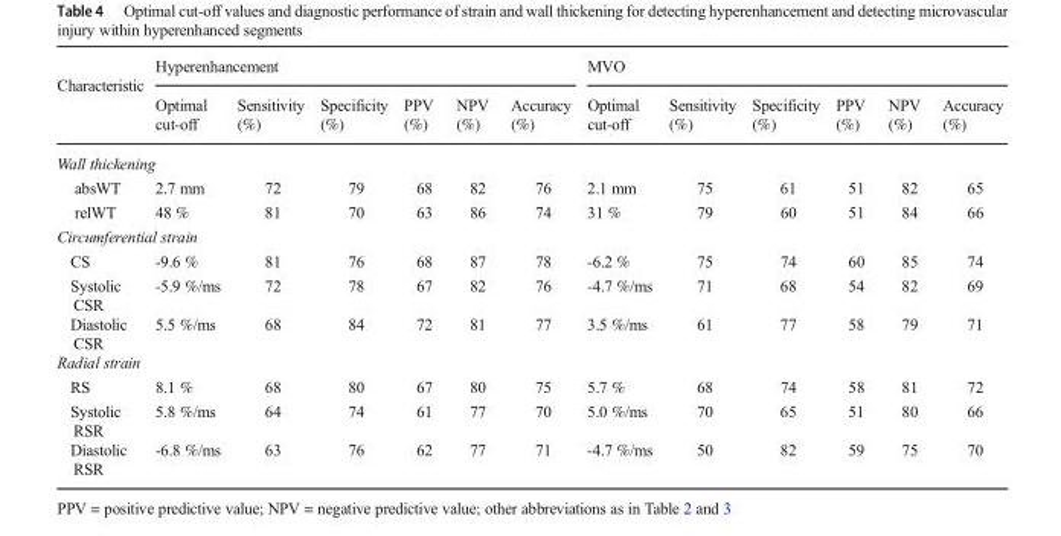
<table><thead><tr><td rowspan="2">Characteristic</td><td colspan="6">Hyperenhancement</td><td colspan="6">MVO</td></tr><tr><td>Optimal cut-off</td><td>Sensitivity (%)</td><td>Specificity (%)</td><td>PPV (%)</td><td>NPV (%)</td><td>Accuracy (%)</td><td>Optimal cut-off</td><td>Sensitivity (%)</td><td>Specificity (%)</td><td>PPV (%)</td><td>NPV (%)</td><td>Accuracy (%)</td></tr></thead><tbody><tr><td colspan="13">Wall thickening</td></tr><tr><td>absWT</td><td>2.7 mm</td><td>72</td><td>79</td><td>68</td><td>82</td><td>76</td><td>2.1 mm</td><td>75</td><td>61</td><td>51</td><td>82</td><td>65</td></tr><tr><td>relWT</td><td>48 %</td><td>81</td><td>70</td><td>63</td><td>86</td><td>74</td><td>31 %</td><td>79</td><td>60</td><td>51</td><td>84</td><td>66</td></tr><tr><td colspan="13">Circumferential strain</td></tr><tr><td>CS</td><td>-9.6 %</td><td>81</td><td>76</td><td>68</td><td>87</td><td>78</td><td>-6.2 %</td><td>75</td><td>74</td><td>60</td><td>85</td><td>74</td></tr><tr><td>Systolic CSR</td><td>-5.9 %/ms</td><td>72</td><td>78</td><td>67</td><td>82</td><td>76</td><td>-4.7 %/ms</td><td>71</td><td>68</td><td>54</td><td>82</td><td>69</td></tr><tr><td>Diastolic CSR</td><td>5.5 %/ms</td><td>68</td><td>84</td><td>72</td><td>81</td><td>77</td><td>3.5 %/ms</td><td>61</td><td>77</td><td>58</td><td>79</td><td>71</td></tr><tr><td colspan="13">Radial strain</td></tr><tr><td>RS</td><td>8.1 %</td><td>68</td><td>80</td><td>67</td><td>80</td><td>75</td><td>5.7 %</td><td>68</td><td>74</td><td>58</td><td>81</td><td>72</td></tr><tr><td>Systolic RSR</td><td>5.8 %/ms</td><td>64</td><td>74</td><td>61</td><td>77</td><td>70</td><td>5.0 %/ms</td><td>70</td><td>65</td><td>51</td><td>80</td><td>66</td></tr><tr><td>Diastolic RSR</td><td>-6.8 %/ms</td><td>63</td><td>76</td><td>62</td><td>77</td><td>71</td><td>-4.7 %/ms</td><td>50</td><td>82</td><td>59</td><td>75</td><td>70</td></tr></tbody></table>